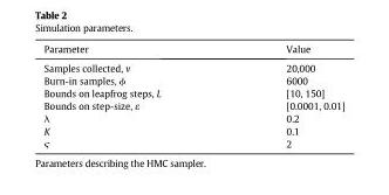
<table><thead><tr><td>Parameter</td><td>Value</td></tr></thead><tbody><tr><td>Samples collected, v</td><td>20,000</td></tr><tr><td>Burn-in samples, ϕ</td><td>6000</td></tr><tr><td>Bounds on leapfrog steps, L</td><td>[10, 150]</td></tr><tr><td>Bounds on step-size, ε</td><td>[0.0001, 0.01]</td></tr><tr><td>λ</td><td>0.2</td></tr><tr><td>K</td><td>0.1</td></tr><tr><td>ς</td><td>2</td></tr></tbody></table>